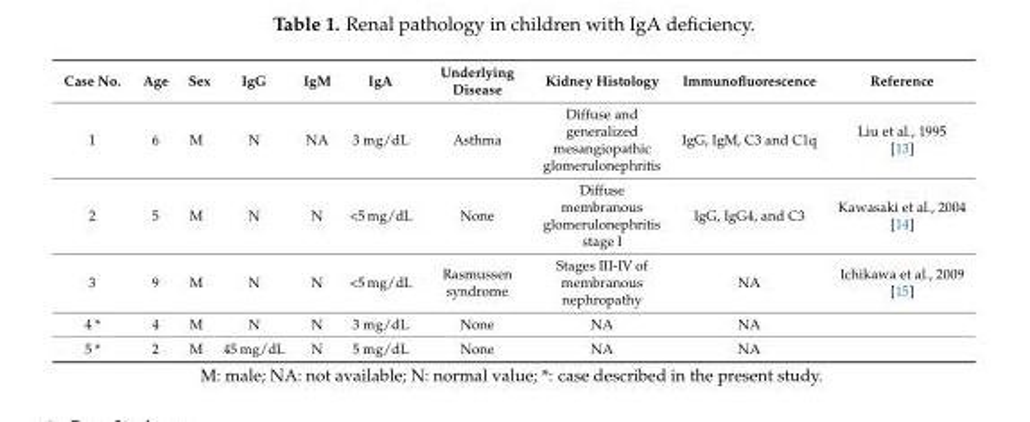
<table><thead><tr><td>Case No.</td><td>Age</td><td>Sex</td><td>IgG</td><td>IgM</td><td>IgA</td><td>Underlying Disease</td><td>Kidney Histology</td><td>Immunofluorescence</td><td>Reference</td></tr></thead><tbody><tr><td>1</td><td>6</td><td>M</td><td>N</td><td>NA</td><td>3 mg/dL</td><td>Asthma</td><td>Diffuse and generalized mesangiopathic glomerulonephritis</td><td>IgG, IgM, C3 and C1q</td><td>Liu et al., 1995 [13]</td></tr><tr><td>2</td><td>5</td><td>M</td><td>N</td><td>N</td><td>&lt;5 mg/dL</td><td>None</td><td>Diffuse membranous glomerulonephritis stage I</td><td>IgG, IgG4, and C3</td><td>Kawasaki et al., 2004 [14]</td></tr><tr><td>3</td><td>9</td><td>M</td><td>N</td><td>N</td><td>&lt;5 mg/dL</td><td>Rasmussen syndrome</td><td>Stages III-IV of membranous nephropathy</td><td>NA</td><td>Ichikawa et al., 2009 [15]</td></tr><tr><td>4 *</td><td>4</td><td>M</td><td>N</td><td>N</td><td>3 mg/dL</td><td>None</td><td>NA</td><td>NA</td><td></td></tr><tr><td>5 *</td><td>2</td><td>M</td><td>45 mg/dL</td><td>N</td><td>5 mg/dL</td><td>None</td><td>NA</td><td>NA</td><td></td></tr></tbody></table>